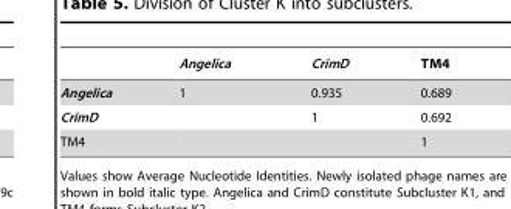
<table><thead><tr><td></td><td>Angelica</td><td>CrimD</td><td>TM4</td></tr></thead><tbody><tr><td>Angelica</td><td>1</td><td>0.935</td><td>0.689</td></tr><tr><td>CrimD</td><td></td><td>1</td><td>0.692</td></tr><tr><td>TM4</td><td></td><td></td><td>1</td></tr></tbody></table>